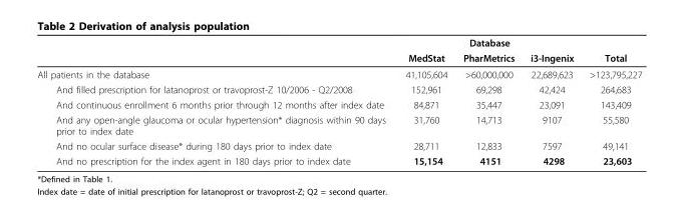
<table><thead><tr><td rowspan="2"></td><td colspan="3">Database</td><td rowspan="2">Total</td></tr><tr><td>MedStat</td><td>PharMetrics</td><td>i3-Ingenix</td></tr></thead><tbody><tr><td>All patients in the database</td><td>41,105,604</td><td>&gt;60,000,000</td><td>22,689,623</td><td>&gt;123,795,227</td></tr><tr><td>And filled prescription for latanoprost or travoprost-Z 10/2006 - Q2/2008</td><td>152,961</td><td>69,298</td><td>42,424</td><td>264,683</td></tr><tr><td>And continuous enrollment 6 months prior through 12 months after index date</td><td>84,871</td><td>35,447</td><td>23,091</td><td>143,409</td></tr><tr><td>And any open-angle glaucoma or ocular hypertension* diagnosis within 90 days prior to index date</td><td>31,760</td><td>14,713</td><td>9107</td><td>55,580</td></tr><tr><td>And no ocular surface disease* during 180 days prior to index date</td><td>28,711</td><td>12,833</td><td>7597</td><td>49,141</td></tr><tr><td>And no prescription for the index agent in 180 days prior to index date</td><td>15,154</td><td>4151</td><td>4298</td><td>23,603</td></tr></tbody></table>